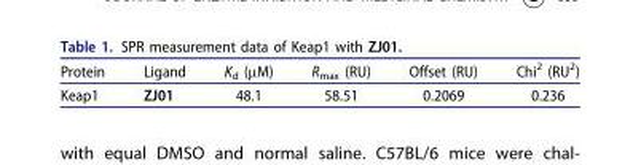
<table><thead><tr><td>Protein</td><td>Ligand</td><td>K<sub>d</sub> (µM)</td><td>R<sub>max</sub> (RU)</td><td>Offset (RU)</td><td>Chi<sup>2</sup> (RU<sup>2</sup>)</td></tr></thead><tbody><tr><td>Keap1</td><td>ZJ01</td><td>48.1</td><td>58.51</td><td>0.2069</td><td>0.236</td></tr></tbody></table>